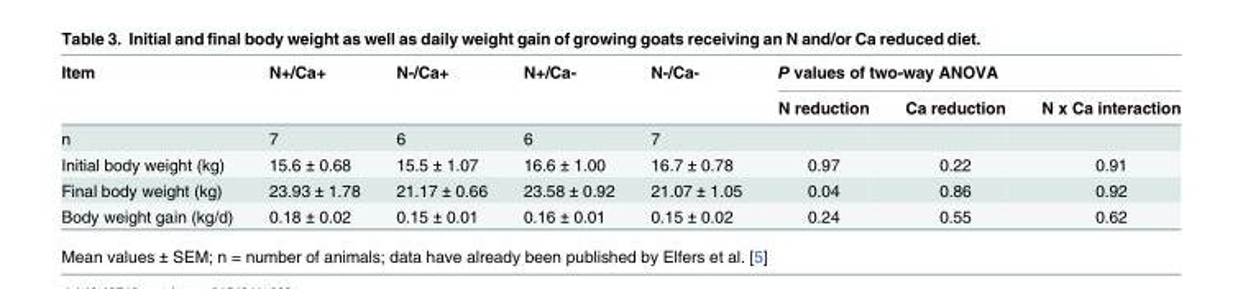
<table><thead><tr><td rowspan="2">Item</td><td rowspan="2">N+/Ca+</td><td rowspan="2">N-/Ca+</td><td rowspan="2">N+/Ca-</td><td rowspan="2">N-/Ca-</td><td colspan="3">P values of two-way ANOVA</td></tr><tr><td>N reduction</td><td>Ca reduction</td><td>N x Ca interaction</td></tr></thead><tbody><tr><td>n</td><td>7</td><td>6</td><td>6</td><td>7</td><td></td><td></td><td></td></tr><tr><td>Initial body weight (kg)</td><td>15.6 ± 0.68</td><td>15.5 ± 1.07</td><td>16.6 ± 1.00</td><td>16.7 ± 0.78</td><td>0.97</td><td>0.22</td><td>0.91</td></tr><tr><td>Final body weight (kg)</td><td>23.93 ± 1.78</td><td>21.17 ± 0.66</td><td>23.58 ± 0.92</td><td>21.07 ± 1.05</td><td>0.04</td><td>0.86</td><td>0.92</td></tr><tr><td>Body weight gain (kg/d)</td><td>0.18 ± 0.02</td><td>0.15 ± 0.01</td><td>0.16 ± 0.01</td><td>0.15 ± 0.02</td><td>0.24</td><td>0.55</td><td>0.62</td></tr></tbody></table>